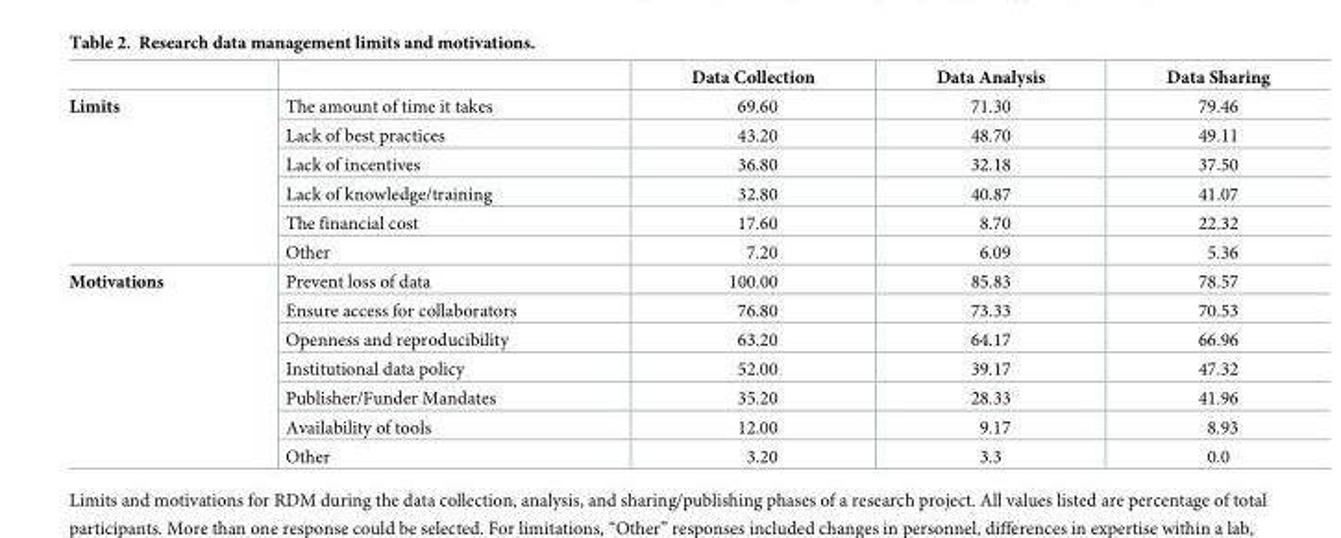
<table><thead><tr><td></td><td></td><td>Data Collection</td><td>Data Analysis</td><td>Data Sharing</td></tr></thead><tbody><tr><td rowspan="6">Limits</td><td>The amount of time it takes</td><td>69.60</td><td>71.30</td><td>79.46</td></tr><tr><td>Lack of best practices</td><td>43.20</td><td>48.70</td><td>49.11</td></tr><tr><td>Lack of incentives</td><td>36.80</td><td>32.18</td><td>37.50</td></tr><tr><td>Lack of knowledge/training</td><td>32.80</td><td>40.87</td><td>41.07</td></tr><tr><td>The financial cost</td><td>17.60</td><td>8.70</td><td>22.32</td></tr><tr><td>Other</td><td>7.20</td><td>6.09</td><td>5.36</td></tr><tr><td rowspan="7">Motivations</td><td>Prevent loss of data</td><td>100.00</td><td>85.83</td><td>78.57</td></tr><tr><td>Ensure access for collaborators</td><td>76.80</td><td>73.33</td><td>70.53</td></tr><tr><td>Openness and reproducibility</td><td>63.20</td><td>64.17</td><td>66.96</td></tr><tr><td>Institutional data policy</td><td>52.00</td><td>39.17</td><td>47.32</td></tr><tr><td>Publisher/Funder Mandates</td><td>35.20</td><td>28.33</td><td>41.96</td></tr><tr><td>Availability of tools</td><td>12.00</td><td>9.17</td><td>8.93</td></tr><tr><td>Other</td><td>3.20</td><td>3.3</td><td>0.0</td></tr></tbody></table>